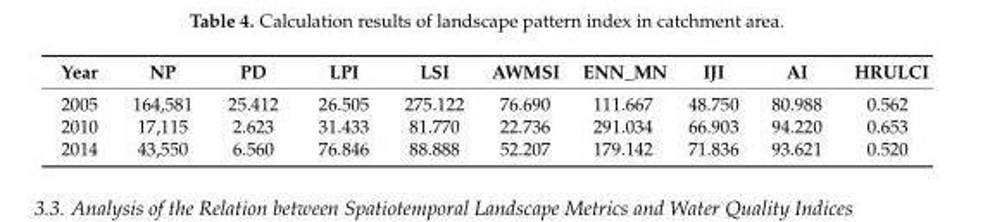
<table><thead><tr><td>Year</td><td>NP</td><td>PD</td><td>LPI</td><td>LSI</td><td>AWMSI</td><td>ENN_MN</td><td>IJI</td><td>AI</td><td>HRULCI</td></tr></thead><tbody><tr><td>2005</td><td>164,581</td><td>25.412</td><td>26.505</td><td>275.122</td><td>76.690</td><td>111.667</td><td>48.750</td><td>80.988</td><td>0.562</td></tr><tr><td>2010</td><td>17,115</td><td>2.623</td><td>31.433</td><td>81.770</td><td>22.736</td><td>291.034</td><td>66.903</td><td>94.220</td><td>0.653</td></tr><tr><td>2014</td><td>43,550</td><td>6.560</td><td>76.846</td><td>88.888</td><td>52.207</td><td>179.142</td><td>71.836</td><td>93.621</td><td>0.520</td></tr></tbody></table>